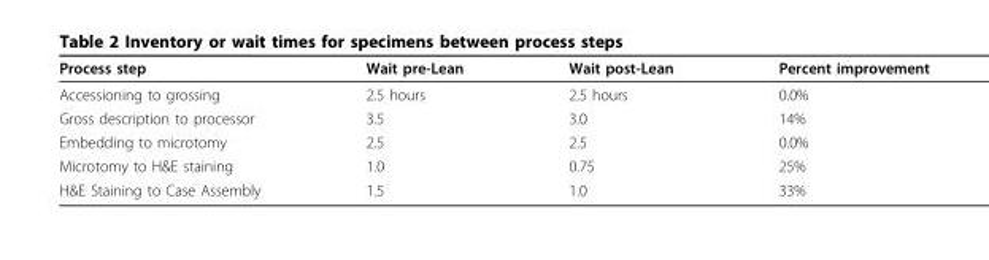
<table><thead><tr><td>Process step</td><td>Wait pre-Lean</td><td>Wait post-Lean</td><td>Percent improvement</td></tr></thead><tbody><tr><td>Accessioning to grossing</td><td>2.5 hours</td><td>2.5 hours</td><td>0.0%</td></tr><tr><td>Gross description to processor</td><td>3.5</td><td>3.0</td><td>14%</td></tr><tr><td>Embedding to microtomy</td><td>2.5</td><td>2.5</td><td>0.0%</td></tr><tr><td>Microtomy to H&amp;E staining</td><td>1.0</td><td>0.75</td><td>25%</td></tr><tr><td>H&amp;E Staining to Case Assembly</td><td>1.5</td><td>1.0</td><td>33%</td></tr></tbody></table>